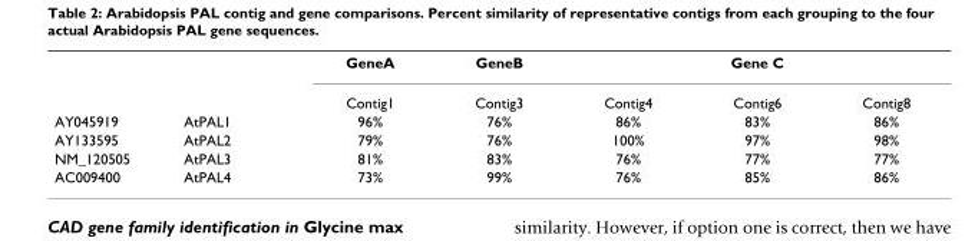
<table><thead><tr><td rowspan="2"></td><td rowspan="2"></td><td rowspan="2">GeneA Contig1</td><td rowspan="2">GeneB Contig3</td><td colspan="3">Gene C</td></tr><tr><td>Contig4</td><td>Contig6</td><td>Contig8</td></tr></thead><tbody><tr><td>AY045919</td><td>AtPAL1</td><td>96%</td><td>76%</td><td>86%</td><td>83%</td><td>86%</td></tr><tr><td>AY133595</td><td>AtPAL2</td><td>79%</td><td>76%</td><td>100%</td><td>97%</td><td>98%</td></tr><tr><td>NM_120505</td><td>AtPAL3</td><td>81%</td><td>83%</td><td>76%</td><td>77%</td><td>77%</td></tr><tr><td>AC009400</td><td>AtPAL4</td><td>73%</td><td>99%</td><td>76%</td><td>85%</td><td>86%</td></tr></tbody></table>